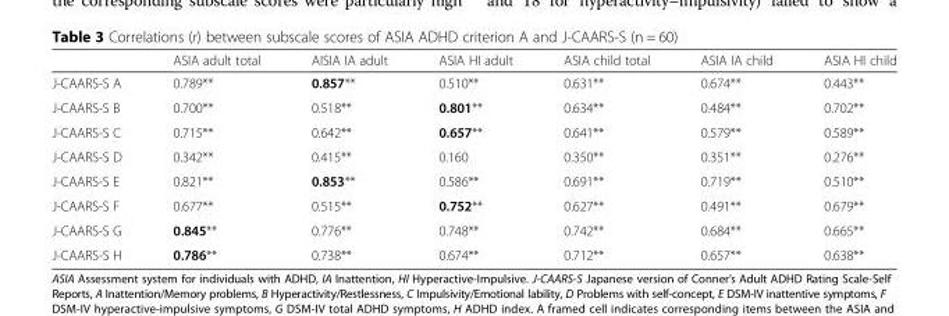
<table><thead><tr><td></td><td>ASIA adult total</td><td>AISIA IA adult</td><td>ASIA HI adult</td><td>ASIA child total</td><td>ASIA IA child</td><td>ASIA HI child</td></tr></thead><tbody><tr><td>J-CAARS-S A</td><td>0.789**</td><td>0.857**</td><td>0.510**</td><td>0.631**</td><td>0.674**</td><td>0.443**</td></tr><tr><td>J-CAARS-S B</td><td>0.700**</td><td>0.518**</td><td>0.801**</td><td>0.634**</td><td>0.484**</td><td>0.702**</td></tr><tr><td>J-CAARS-S C</td><td>0.715**</td><td>0.642**</td><td>0.657**</td><td>0.641**</td><td>0.579**</td><td>0.589**</td></tr><tr><td>J-CAARS-S D</td><td>0.342**</td><td>0.415**</td><td>0.160</td><td>0.350**</td><td>0.351**</td><td>0.276**</td></tr><tr><td>J-CAARS-S E</td><td>0.821**</td><td>0.853**</td><td>0.586**</td><td>0.691**</td><td>0.719**</td><td>0.510**</td></tr><tr><td>J-CAARS-S F</td><td>0.677**</td><td>0.515**</td><td>0.752**</td><td>0.627**</td><td>0.491**</td><td>0.679**</td></tr><tr><td>J-CAARS-S G</td><td>0.845**</td><td>0.776**</td><td>0.748**</td><td>0.742**</td><td>0.684**</td><td>0.665**</td></tr><tr><td>J-CAARS-S H</td><td>0.786**</td><td>0.738**</td><td>0.674**</td><td>0.712**</td><td>0.657**</td><td>0.638**</td></tr></tbody></table>